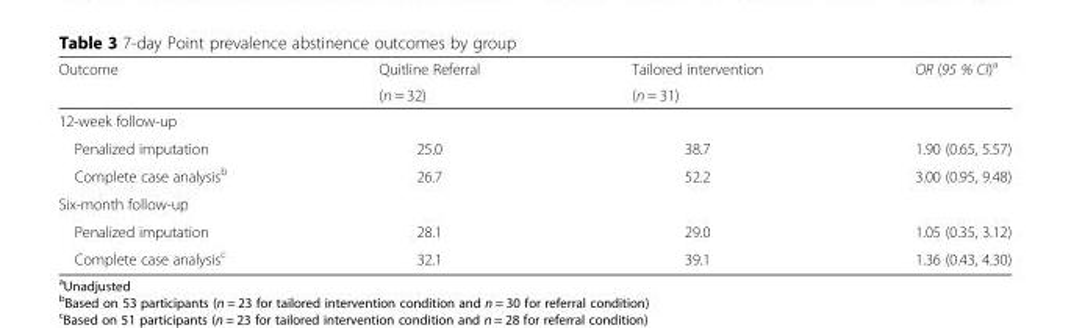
<table><thead><tr><td rowspan="2">Outcome</td><td rowspan="2">Quitline Referral (n = 32)</td><td rowspan="2">Tailored intervention (n = 31)</td><td rowspan="2">OR (95 % CI)<sup>a</sup></td></tr><tr></tr></thead><tbody><tr><td colspan="4">12-week follow-up</td></tr><tr><td>Penalized imputation</td><td>25.0</td><td>38.7</td><td>1.90 (0.65, 5.57)</td></tr><tr><td>Complete case analysis<sup>b</sup></td><td>26.7</td><td>52.2</td><td>3.00 (0.95, 9.48)</td></tr><tr><td colspan="4">Six-month follow-up</td></tr><tr><td>Penalized imputation</td><td>28.1</td><td>29.0</td><td>1.05 (0.35, 3.12)</td></tr><tr><td>Complete case analysis<sup>c</sup></td><td>32.1</td><td>39.1</td><td>1.36 (0.43, 4.30)</td></tr></tbody></table>